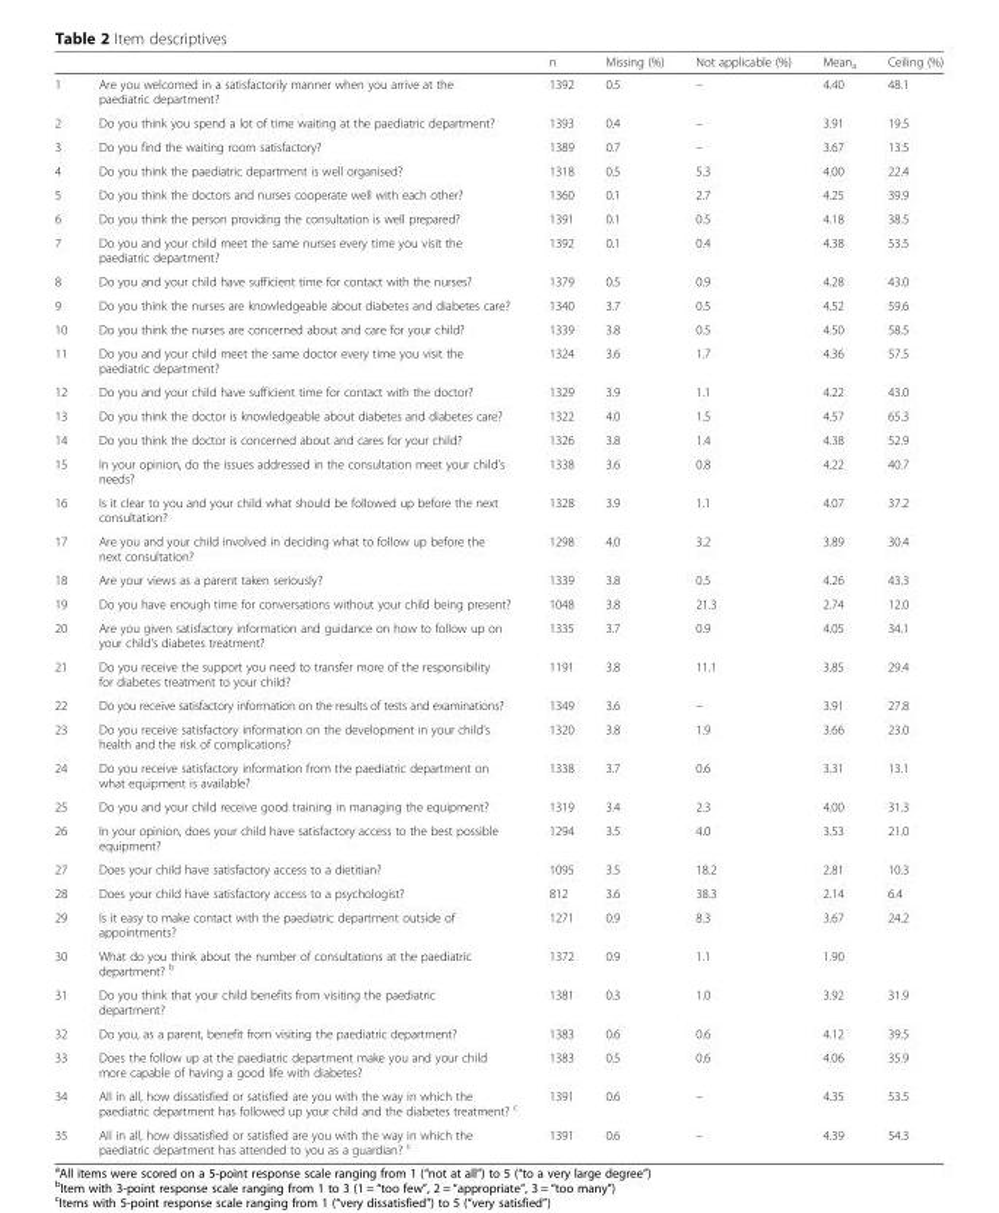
<table><thead><tr><td></td><td></td><td>n</td><td>Missing (%)</td><td>Not applicable (%)</td><td>Mean<sub>a</sub></td><td>Ceiling (%)</td></tr></thead><tbody><tr><td>1</td><td>Are you welcomed in a satisfactorily manner when you arrive at the paediatric department?</td><td>1392</td><td>0.5</td><td>–</td><td>4.40</td><td>48.1</td></tr><tr><td>2</td><td>Do you think you spend a lot of time waiting at the paediatric department?</td><td>1393</td><td>0.4</td><td>–</td><td>3.91</td><td>19.5</td></tr><tr><td>3</td><td>Do you find the waiting room satisfactory?</td><td>1389</td><td>0.7</td><td>–</td><td>3.67</td><td>13.5</td></tr><tr><td>4</td><td>Do you think the paediatric department is well organised?</td><td>1318</td><td>0.5</td><td>5.3</td><td>4.00</td><td>22.4</td></tr><tr><td>5</td><td>Do you think the doctors and nurses cooperate well with each other?</td><td>1360</td><td>0.1</td><td>2.7</td><td>4.25</td><td>39.9</td></tr><tr><td>6</td><td>Do you think the person providing the consultation is well prepared?</td><td>1391</td><td>0.1</td><td>0.5</td><td>4.18</td><td>38.5</td></tr><tr><td>7</td><td>Do you and your child meet the same nurses every time you visit the paediatric department?</td><td>1392</td><td>0.1</td><td>0.4</td><td>4.38</td><td>53.5</td></tr><tr><td>8</td><td>Do you and your child have sufficient time for contact with the nurses?</td><td>1379</td><td>0.5</td><td>0.9</td><td>4.28</td><td>43.0</td></tr><tr><td>9</td><td>Do you think the nurses are knowledgeable about diabetes and diabetes care?</td><td>1340</td><td>3.7</td><td>0.5</td><td>4.52</td><td>59.6</td></tr><tr><td>10</td><td>Do you think the nurses are concerned about and care for your child?</td><td>1339</td><td>3.8</td><td>0.5</td><td>4.50</td><td>58.5</td></tr><tr><td>11</td><td>Do you and your child meet the same doctor every time you visit the paediatric department?</td><td>1324</td><td>3.6</td><td>1.7</td><td>4.36</td><td>57.5</td></tr><tr><td>12</td><td>Do you and your child have sufficient time for contact with the doctor?</td><td>1329</td><td>3.9</td><td>1.1</td><td>4.22</td><td>43.0</td></tr><tr><td>13</td><td>Do you think the doctor is knowledgeable about diabetes and diabetes care?</td><td>1322</td><td>4.0</td><td>1.5</td><td>4.57</td><td>65.3</td></tr><tr><td>14</td><td>Do you think the doctor is concerned about and cares for your child?</td><td>1326</td><td>3.8</td><td>1.4</td><td>4.38</td><td>52.9</td></tr><tr><td>15</td><td>In your opinion, do the issues addressed in the consultation meet your child’s needs?</td><td>1338</td><td>3.6</td><td>0.8</td><td>4.22</td><td>40.7</td></tr><tr><td>16</td><td>Is it clear to you and your child what should be followed up before the next consultation?</td><td>1328</td><td>3.9</td><td>1.1</td><td>4.07</td><td>37.2</td></tr><tr><td>17</td><td>Are you and your child involved in deciding what to follow up before the next consultation?</td><td>1298</td><td>4.0</td><td>3.2</td><td>3.89</td><td>30.4</td></tr><tr><td>18</td><td>Are your views as a parent taken seriously?</td><td>1339</td><td>3.8</td><td>0.5</td><td>4.26</td><td>43.3</td></tr><tr><td>19</td><td>Do you have enough time for conversations without your child being present?</td><td>1048</td><td>3.8</td><td>21.3</td><td>2.74</td><td>12.0</td></tr><tr><td>20</td><td>Are you given satisfactory information and guidance on how to follow up on your child’s diabetes treatment?</td><td>1335</td><td>3.7</td><td>0.9</td><td>4.05</td><td>34.1</td></tr><tr><td>21</td><td>Do you receive the support you need to transfer more of the responsibility for diabetes treatment to your child?</td><td>1191</td><td>3.8</td><td>11.1</td><td>3.85</td><td>29.4</td></tr><tr><td>22</td><td>Do you receive satisfactory information on the results of tests and examinations?</td><td>1349</td><td>3.6</td><td>–</td><td>3.91</td><td>27.8</td></tr><tr><td>23</td><td>Do you receive satisfactory information on the development in your child’s health and the risk of complications?</td><td>1320</td><td>3.8</td><td>1.9</td><td>3.66</td><td>23.0</td></tr><tr><td>24</td><td>Do you receive satisfactory information from the paediatric department on what equipment is available?</td><td>1338</td><td>3.7</td><td>0.6</td><td>3.31</td><td>13.1</td></tr><tr><td>25</td><td>Do you and your child receive good training in managing the equipment?</td><td>1319</td><td>3.4</td><td>2.3</td><td>4.00</td><td>31.3</td></tr><tr><td>26</td><td>In your opinion, does your child have satisfactory access to the best possible equipment?</td><td>1294</td><td>3.5</td><td>4.0</td><td>3.53</td><td>21.0</td></tr><tr><td>27</td><td>Does your child have satisfactory access to a dietitian?</td><td>1095</td><td>3.5</td><td>18.2</td><td>2.81</td><td>10.3</td></tr><tr><td>28</td><td>Does your child have satisfactory access to a psychologist?</td><td>812</td><td>3.6</td><td>38.3</td><td>2.14</td><td>6.4</td></tr><tr><td>29</td><td>Is it easy to make contact with the paediatric department outside of appointments?</td><td>1271</td><td>0.9</td><td>8.3</td><td>3.67</td><td>24.2</td></tr><tr><td>30</td><td>What do you think about the number of consultations at the paediatric department? <sup>b</sup></td><td>1372</td><td>0.9</td><td>1.1</td><td>1.90</td><td></td></tr><tr><td>31</td><td>Do you think that your child benefits from visiting the paediatric department?</td><td>1381</td><td>0.3</td><td>1.0</td><td>3.92</td><td>31.9</td></tr><tr><td>32</td><td>Do you, as a parent, benefit from visiting the paediatric department?</td><td>1383</td><td>0.6</td><td>0.6</td><td>4.12</td><td>39.5</td></tr><tr><td>33</td><td>Does the follow up at the paediatric department make you and your child more capable of having a good life with diabetes?</td><td>1383</td><td>0.5</td><td>0.6</td><td>4.06</td><td>35.9</td></tr><tr><td>34</td><td>All in all, how dissatisfied or satisfied are you with the way in which the paediatric department has followed up your child and the diabetes treatment? <sup>c</sup></td><td>1391</td><td>0.6</td><td>–</td><td>4.35</td><td>53.5</td></tr><tr><td>35</td><td>All in all, how dissatisfied or satisfied are you with the way in which the paediatric department has attended to you as a guardian? <sup>c</sup></td><td>1391</td><td>0.6</td><td>–</td><td>4.39</td><td>54.3</td></tr></tbody></table>